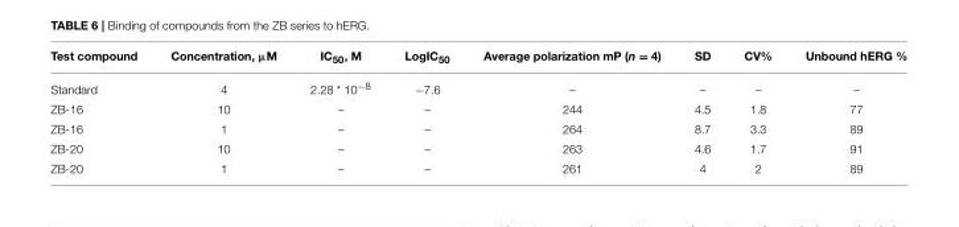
<table><thead><tr><td>Test compound</td><td>Concentration, µM</td><td>IC<sub>50</sub>, M</td><td>LogIC<sub>50</sub></td><td>Average polarization mP (n = 4)</td><td>SD</td><td>CV%</td><td>Unbound hERG %</td></tr></thead><tbody><tr><td>Standard</td><td>4</td><td>2.28 * 10<sup>−8</sup></td><td>−7.6</td><td>–</td><td>–</td><td>–</td><td>–</td></tr><tr><td>ZB-16</td><td>10</td><td>–</td><td>–</td><td>244</td><td>4.5</td><td>1.8</td><td>77</td></tr><tr><td>ZB-16</td><td>1</td><td>–</td><td>–</td><td>264</td><td>8.7</td><td>3.3</td><td>89</td></tr><tr><td>ZB-20</td><td>10</td><td>–</td><td>–</td><td>263</td><td>4.6</td><td>1.7</td><td>91</td></tr><tr><td>ZB-20</td><td>1</td><td>–</td><td>–</td><td>261</td><td>4</td><td>2</td><td>89</td></tr></tbody></table>